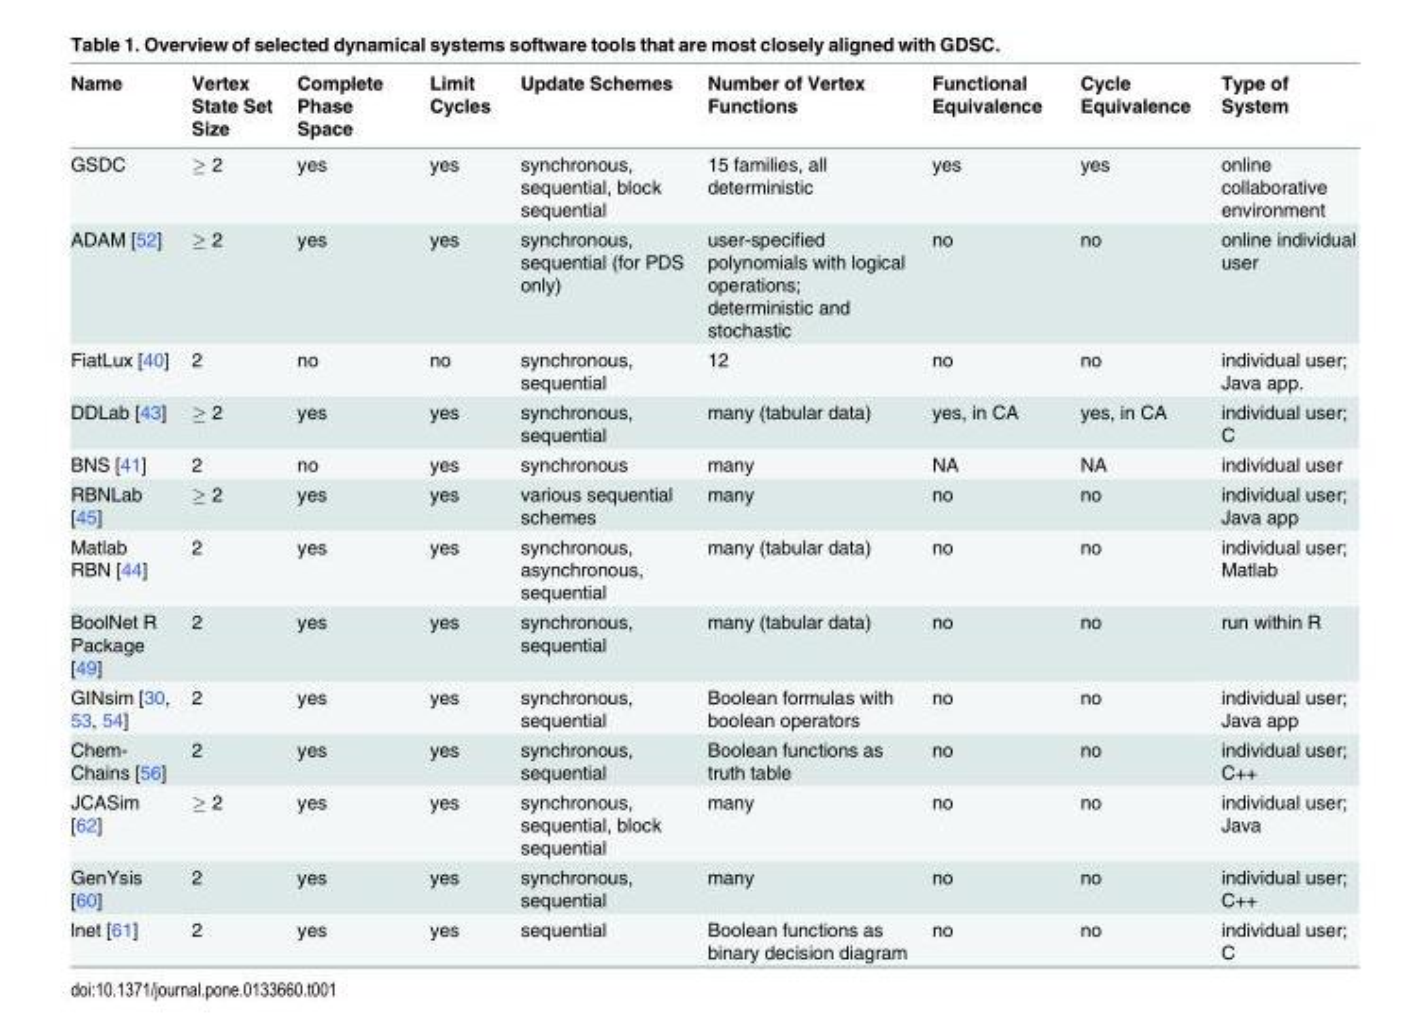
<table><thead><tr><td>Name</td><td>Vertex State Set Size</td><td>Complete Phase Space</td><td>Limit Cycles</td><td>Update Schemes</td><td>Number of Vertex Functions</td><td>Functional Equivalence</td><td>Cycle Equivalence</td><td>Type of System</td></tr></thead><tbody><tr><td>GSDC</td><td>≥ 2</td><td>yes</td><td>yes</td><td>synchronous, sequential, block sequential</td><td>15 families, all deterministic</td><td>yes</td><td>yes</td><td>online collaborative environment</td></tr><tr><td>ADAM [52]</td><td>≥ 2</td><td>yes</td><td>yes</td><td>synchronous, sequential (for PDS only)</td><td>user-specified polynomials with logical operations; deterministic and stochastic</td><td>no</td><td>no</td><td>online individual user</td></tr><tr><td>FiatLux [40]</td><td>2</td><td>no</td><td>no</td><td>synchronous, sequential</td><td>12</td><td>no</td><td>no</td><td>individual user; Java app.</td></tr><tr><td>DDLab [43]</td><td>≥ 2</td><td>yes</td><td>yes</td><td>synchronous, sequential</td><td>many (tabular data)</td><td>yes, in CA</td><td>yes, in CA</td><td>individual user; C</td></tr><tr><td>BNS [41]</td><td>2</td><td>no</td><td>yes</td><td>synchronous</td><td>many</td><td>NA</td><td>NA</td><td>individual user</td></tr><tr><td>RBNLab [45]</td><td>≥ 2</td><td>yes</td><td>yes</td><td>various sequential schemes</td><td>many</td><td>no</td><td>no</td><td>individual user; Java app</td></tr><tr><td>Matlab RBN [44]</td><td>2</td><td>yes</td><td>yes</td><td>synchronous, asynchronous, sequential</td><td>many (tabular data)</td><td>no</td><td>no</td><td>individual user; Matlab</td></tr><tr><td>BoolNet R Package [49]</td><td>2</td><td>yes</td><td>yes</td><td>synchronous, sequential</td><td>many (tabular data)</td><td>no</td><td>no</td><td>run within R</td></tr><tr><td>GINsim [30, 53, 54]</td><td>2</td><td>yes</td><td>yes</td><td>synchronous, sequential</td><td>Boolean formulas with boolean operators</td><td>no</td><td>no</td><td>individual user; Java app</td></tr><tr><td>Chem- Chains [56]</td><td>2</td><td>yes</td><td>yes</td><td>synchronous, sequential</td><td>Boolean functions as truth table</td><td>no</td><td>no</td><td>individual user; C++</td></tr><tr><td>JCASim [62]</td><td>≥ 2</td><td>yes</td><td>yes</td><td>synchronous, sequential, block sequential</td><td>many</td><td>no</td><td>no</td><td>individual user; Java</td></tr><tr><td>GenYsis [60]</td><td>2</td><td>yes</td><td>yes</td><td>synchronous, sequential</td><td>many</td><td>no</td><td>no</td><td>individual user; C++</td></tr><tr><td>lnet [61]</td><td>2</td><td>yes</td><td>yes</td><td>sequential</td><td>Boolean functions as binary decision diagram</td><td>no</td><td>no</td><td>individual user; C</td></tr></tbody></table>